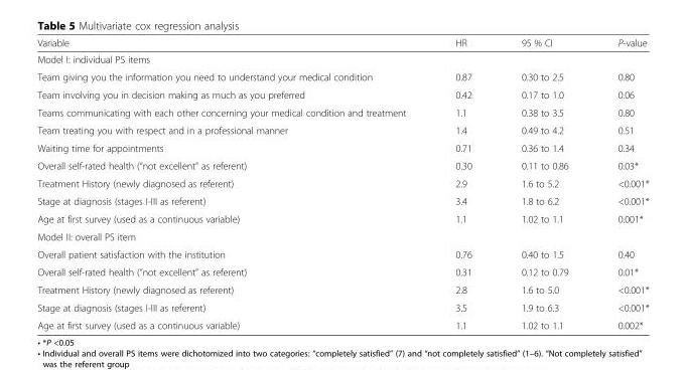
<table><thead><tr><td>Variable</td><td>HR</td><td>95 % CI</td><td>P-value</td></tr></thead><tbody><tr><td colspan="4">Model I: individual PS items</td></tr><tr><td>Team giving you the information you need to understand your medical condition</td><td>0.87</td><td>0.30 to 2.5</td><td>0.80</td></tr><tr><td>Team involving you in decision making as much as you preferred</td><td>0.42</td><td>0.17 to 1.0</td><td>0.06</td></tr><tr><td>Teams communicating with each other concerning your medical condition and treatment</td><td>1.1</td><td>0.38 to 3.5</td><td>0.80</td></tr><tr><td>Team treating you with respect and in a professional manner</td><td>1.4</td><td>0.49 to 4.2</td><td>0.51</td></tr><tr><td>Waiting time for appointments</td><td>0.71</td><td>0.36 to 1.4</td><td>0.34</td></tr><tr><td>Overall self-rated health (“not excellent” as referent)</td><td>0.30</td><td>0.11 to 0.86</td><td>0.03*</td></tr><tr><td>Treatment History (newly diagnosed as referent)</td><td>2.9</td><td>1.6 to 5.2</td><td>&lt;0.001*</td></tr><tr><td>Stage at diagnosis (stages I-III as referent)</td><td>3.4</td><td>1.8 to 6.2</td><td>&lt;0.001*</td></tr><tr><td>Age at first survey (used as a continuous variable)</td><td>1.1</td><td>1.02 to 1.1</td><td>0.001*</td></tr><tr><td colspan="4">Model II: overall PS item</td></tr><tr><td>Overall patient satisfaction with the institution</td><td>0.76</td><td>0.40 to 1.5</td><td>0.40</td></tr><tr><td>Overall self-rated health (“not excellent” as referent)</td><td>0.31</td><td>0.12 to 0.79</td><td>0.01*</td></tr><tr><td>Treatment History (newly diagnosed as referent)</td><td>2.8</td><td>1.6 to 5.0</td><td>&lt;0.001*</td></tr><tr><td>Stage at diagnosis (stages I-III as referent)</td><td>3.5</td><td>1.9 to 6.3</td><td>&lt;0.001*</td></tr><tr><td>Age at first survey (used as a continuous variable)</td><td>1.1</td><td>1.02 to 1.1</td><td>0.002*</td></tr></tbody></table>